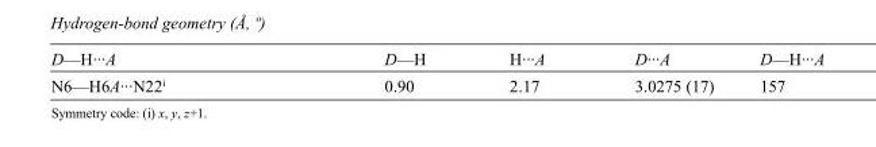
<table><tbody><tr><td>D—H···A</td><td>D—H</td><td>H···A</td><td>D···A</td><td>D—H···A</td></tr><tr><td>N6—H6A···N22<sup>i</sup></td><td>0.90</td><td>2.17</td><td>3.0275 (17)</td><td>157</td></tr></tbody></table>